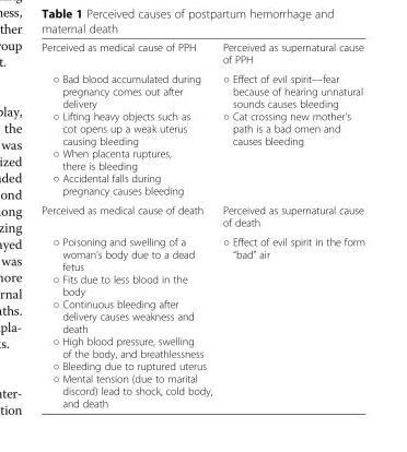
<table><tbody><tr><td>Perceived as medical cause of PPH</td><td>Perceived as supernatural cause of PPH</td></tr><tr><td>○ Bad blood accumulated during pregnancy comes out after delivery ○ Lifting heavy objects such as cot opens up a weak uterus causing bleeding ○ When placenta ruptures, there is bleeding ○ Accidental falls during pregnancy causes bleeding</td><td>○ Effect of evil spirit––fear because of hearing unnatural sounds causes bleeding ○ Cat crossing new mother’s path is a bad omen and causes bleeding</td></tr><tr><td>Perceived as medical cause of death</td><td>Perceived as supernatural cause of death</td></tr><tr><td>○ Poisoning and swelling of a woman’s body due to a dead fetus ○ Fits due to less blood in the body ○ Continuous bleeding after delivery causes weakness and death ○ High blood pressure, swelling of the body, and breathlessness ○ Bleeding due to ruptured uterus ○ Mental tension (due to marital discord) lead to shock, cold body, and death</td><td>○ Effect of evil spirit in the form “bad” air</td></tr></tbody></table>